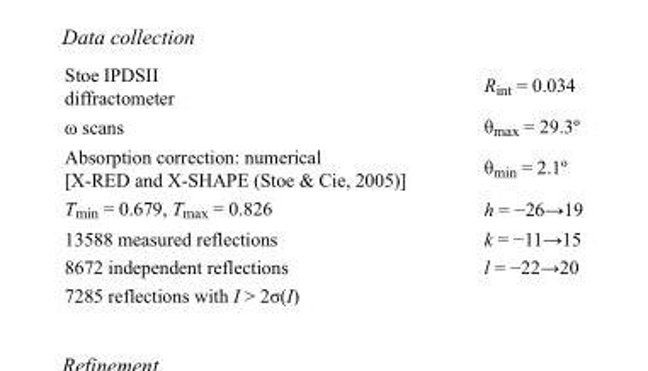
<table><tbody><tr><td>Stoe IPDSII diffractometer</td><td>R<sub>int</sub> = 0.034</td></tr><tr><td>ω scans</td><td>θ<sub>max</sub> = 29.3º</td></tr><tr><td>Absorption correction: numerical [X-RED and X-SHAPE (Stoe &amp; Cie, 2005)]</td><td>θ<sub>min</sub> = 2.1º</td></tr><tr><td>T<sub>min</sub> = 0.679, T<sub>max</sub> = 0.826</td><td>h = −26→19</td></tr><tr><td>13588 measured reflections</td><td>k = −11→15</td></tr><tr><td>8672 independent reflections</td><td>l = −22→20</td></tr><tr><td>7285 reflections with I &gt; 2σ(I)</td><td></td></tr></tbody></table>